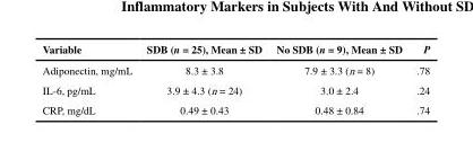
<table><thead><tr><td>Variable</td><td>SDB (n = 25), Mean ± SD</td><td>No SDB (n = 9), Mean ± SD</td><td>P</td></tr></thead><tbody><tr><td>Adiponectin, mg/mL</td><td>8.3 ± 3.8</td><td>7.9 ± 3.3 (n = 8)</td><td>.78</td></tr><tr><td>IL-6, pg/mL</td><td>3.9 ± 4.3 (n = 24)</td><td>3.0 ± 2.4</td><td>.24</td></tr><tr><td>CRP, mg/dL</td><td>0.49 ± 0.43</td><td>0.48 ± 0.84</td><td>.74</td></tr></tbody></table>